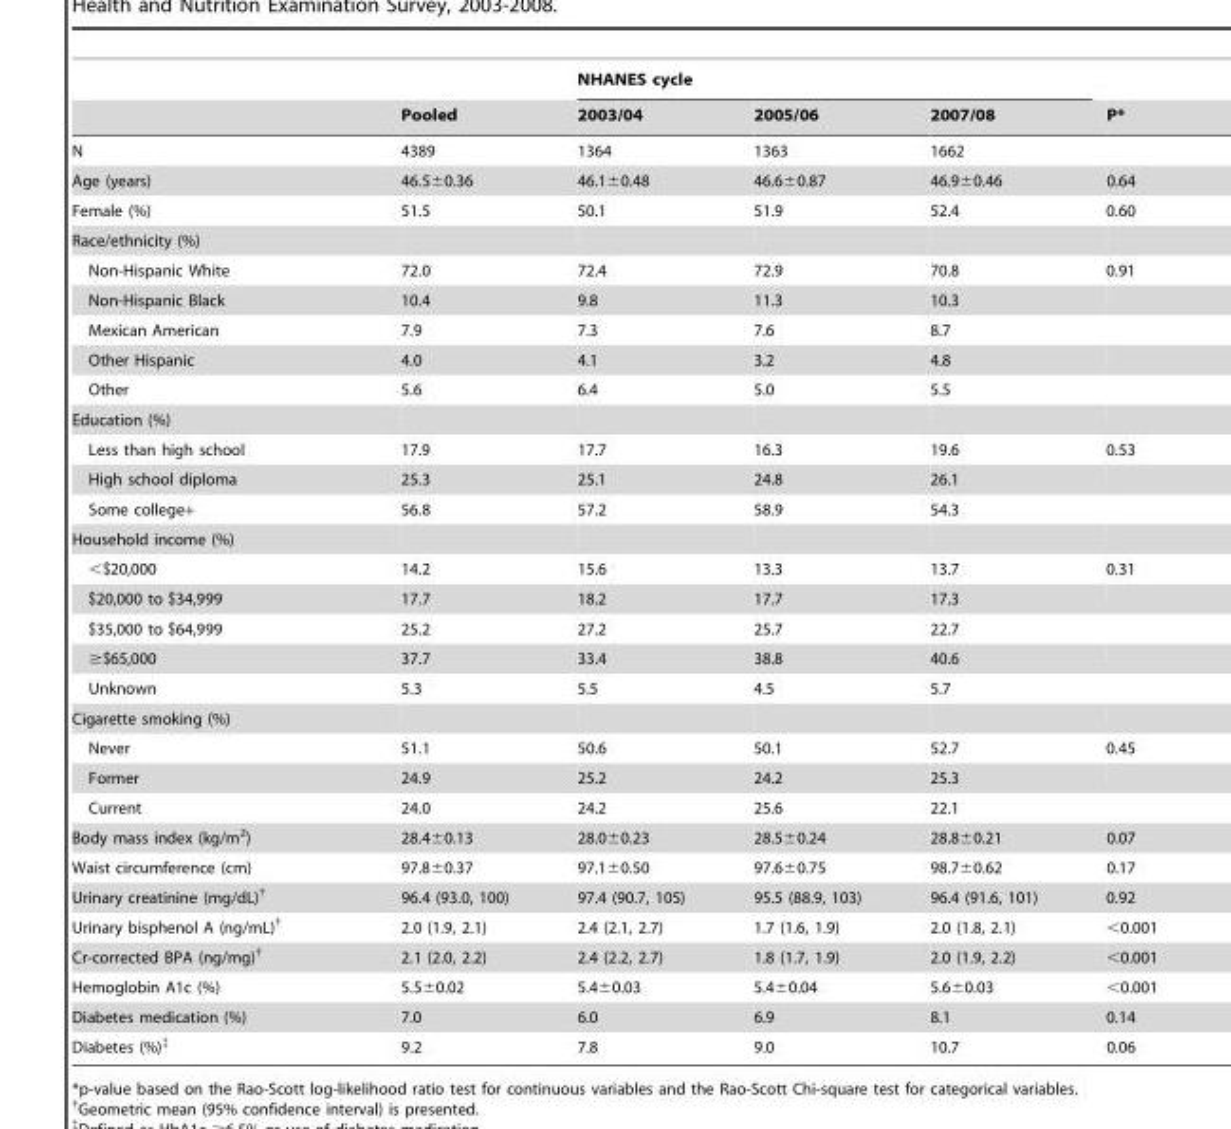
<table><thead><tr><td rowspan="2"></td><td rowspan="2">Pooled</td><td colspan="3">NHANES cycle</td><td rowspan="2">P*</td></tr><tr><td>2003/04</td><td>2005/06</td><td>2007/08</td></tr></thead><tbody><tr><td>N</td><td>4389</td><td>1364</td><td>1363</td><td>1662</td><td></td></tr><tr><td>Age (years)</td><td>46.5±0.36</td><td>46.1±0.48</td><td>46.6±0.87</td><td>46.9±0.46</td><td>0.64</td></tr><tr><td>Female (%)</td><td>51.5</td><td>50.1</td><td>51.9</td><td>52.4</td><td>0.60</td></tr><tr><td colspan="6">Race/ethnicity (%)</td></tr><tr><td>Non-Hispanic White</td><td>72.0</td><td>72.4</td><td>72.9</td><td>70.8</td><td>0.91</td></tr><tr><td>Non-Hispanic Black</td><td>10.4</td><td>9.8</td><td>11.3</td><td>10.3</td><td></td></tr><tr><td>Mexican American</td><td>7.9</td><td>7.3</td><td>7.6</td><td>8.7</td><td></td></tr><tr><td>Other Hispanic</td><td>4.0</td><td>4.1</td><td>3.2</td><td>4.8</td><td></td></tr><tr><td>Other</td><td>5.6</td><td>6.4</td><td>5.0</td><td>5.5</td><td></td></tr><tr><td colspan="6">Education (%)</td></tr><tr><td>Less than high school</td><td>17.9</td><td>17.7</td><td>16.3</td><td>19.6</td><td>0.53</td></tr><tr><td>High school diploma</td><td>25.3</td><td>25.1</td><td>24.8</td><td>26.1</td><td></td></tr><tr><td>Some college+</td><td>56.8</td><td>57.2</td><td>58.9</td><td>54.3</td><td></td></tr><tr><td colspan="6">Household income (%)</td></tr><tr><td>&lt;$20,000</td><td>14.2</td><td>15.6</td><td>13.3</td><td>13.7</td><td>0.31</td></tr><tr><td>$20,000 to $34,999</td><td>17.7</td><td>18.2</td><td>17.7</td><td>17.3</td><td></td></tr><tr><td>$35,000 to $64,999</td><td>25.2</td><td>27.2</td><td>25.7</td><td>22.7</td><td></td></tr><tr><td>≥$65,000</td><td>37.7</td><td>33.4</td><td>38.8</td><td>40.6</td><td></td></tr><tr><td>Unknown</td><td>5.3</td><td>5.5</td><td>4.5</td><td>5.7</td><td></td></tr><tr><td colspan="6">Cigarette smoking (%)</td></tr><tr><td>Never</td><td>51.1</td><td>50.6</td><td>50.1</td><td>52.7</td><td>0.45</td></tr><tr><td>Former</td><td>24.9</td><td>25.2</td><td>24.2</td><td>25.3</td><td></td></tr><tr><td>Current</td><td>24.0</td><td>24.2</td><td>25.6</td><td>22.1</td><td></td></tr><tr><td>Body mass index (kg/m<sup>2</sup>)</td><td>28.4±0.13</td><td>28.0±0.23</td><td>28.5±0.24</td><td>28.8±0.21</td><td>0.07</td></tr><tr><td>Waist circumference (cm)</td><td>97.8±0.37</td><td>97.1±0.50</td><td>97.6±0.75</td><td>98.7±0.62</td><td>0.17</td></tr><tr><td>Urinary creatinine (mg/dL)†</td><td>96.4 (93.0, 100)</td><td>97.4 (90.7, 105)</td><td>95.5 (88.9, 103)</td><td>96.4 (91.6, 101)</td><td>0.92</td></tr><tr><td>Urinary bisphenol A (ng/mL)†</td><td>2.0 (1.9, 2.1)</td><td>2.4 (2.1, 2.7)</td><td>1.7 (1.6, 1.9)</td><td>2.0 (1.8, 2.1)</td><td>&lt;0.001</td></tr><tr><td>Cr-corrected BPA (ng/mg)†</td><td>2.1 (2.0, 2.2)</td><td>2.4 (2.2, 2.7)</td><td>1.8 (1.7, 1.9)</td><td>2.0 (1.9, 2.2)</td><td>&lt;0.001</td></tr><tr><td>Hemoglobin A1c (%)</td><td>5.5±0.02</td><td>5.4±0.03</td><td>5.4±0.04</td><td>5.6±0.03</td><td>&lt;0.001</td></tr><tr><td>Diabetes medication (%)</td><td>7.0</td><td>6.0</td><td>6.9</td><td>8.1</td><td>0.14</td></tr><tr><td>Diabetes (%)‡</td><td>9.2</td><td>7.8</td><td>9.0</td><td>10.7</td><td>0.06</td></tr></tbody></table>